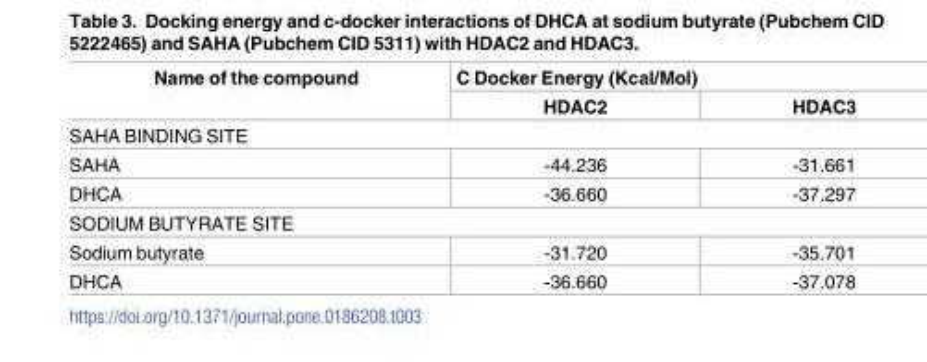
<table><thead><tr><td rowspan="2">Name of the compound</td><td colspan="2">C Docker Energy (Kcal/Mol)</td></tr><tr><td>HDAC2</td><td>HDAC3</td></tr></thead><tbody><tr><td colspan="3">SAHA BINDING SITE</td></tr><tr><td>SAHA</td><td>-44.236</td><td>-31.661</td></tr><tr><td>DHCA</td><td>-36.660</td><td>-37.297</td></tr><tr><td colspan="3">SODIUM BUTYRATE SITE</td></tr><tr><td>Sodium butyrate</td><td>-31.720</td><td>-35.701</td></tr><tr><td>DHCA</td><td>-36.660</td><td>-37.078</td></tr></tbody></table>